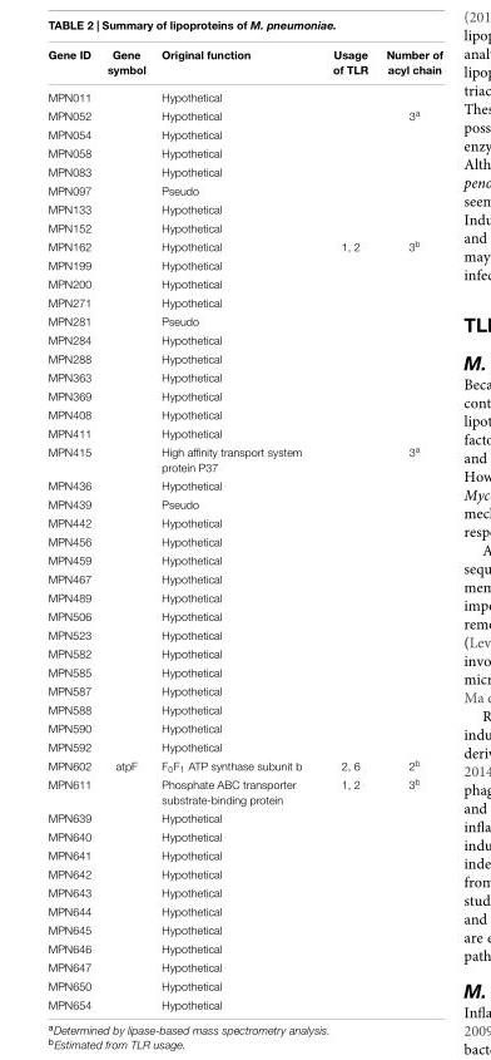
<table><thead><tr><td>Gene ID</td><td>Gene symbol</td><td>Original function</td><td>Usage of TLR</td><td>Number of acyl chain</td></tr></thead><tbody><tr><td>MPN011</td><td></td><td>Hypothetical</td><td></td><td></td></tr><tr><td>MPN052</td><td></td><td>Hypothetical</td><td></td><td>3<sup>a</sup></td></tr><tr><td>MPN054</td><td></td><td>Hypothetical</td><td></td><td></td></tr><tr><td>MPN058</td><td></td><td>Hypothetical</td><td></td><td></td></tr><tr><td>MPN083</td><td></td><td>Hypothetical</td><td></td><td></td></tr><tr><td>MPN097</td><td></td><td>Pseudo</td><td></td><td></td></tr><tr><td>MPN133</td><td></td><td>Hypothetical</td><td></td><td></td></tr><tr><td>MPN152</td><td></td><td>Hypothetical</td><td></td><td></td></tr><tr><td>MPN162</td><td></td><td>Hypothetical</td><td>1, 2</td><td>3<sup>b</sup></td></tr><tr><td>MPN199</td><td></td><td>Hypothetical</td><td></td><td></td></tr><tr><td>MPN200</td><td></td><td>Hypothetical</td><td></td><td></td></tr><tr><td>MPN271</td><td></td><td>Hypothetical</td><td></td><td></td></tr><tr><td>MPN281</td><td></td><td>Pseudo</td><td></td><td></td></tr><tr><td>MPN284</td><td></td><td>Hypothetical</td><td></td><td></td></tr><tr><td>MPN288</td><td></td><td>Hypothetical</td><td></td><td></td></tr><tr><td>MPN363</td><td></td><td>Hypothetical</td><td></td><td></td></tr><tr><td>MPN369</td><td></td><td>Hypothetical</td><td></td><td></td></tr><tr><td>MPN408</td><td></td><td>Hypothetical</td><td></td><td></td></tr><tr><td>MPN411</td><td></td><td>Hypothetical</td><td></td><td></td></tr><tr><td>MPN415</td><td></td><td>High affinity transport system protein P37</td><td></td><td>3<sup>a</sup></td></tr><tr><td>MPN436</td><td></td><td>Hypothetical</td><td></td><td></td></tr><tr><td>MPN439</td><td></td><td>Pseudo</td><td></td><td></td></tr><tr><td>MPN442</td><td></td><td>Hypothetical</td><td></td><td></td></tr><tr><td>MPN456</td><td></td><td>Hypothetical</td><td></td><td></td></tr><tr><td>MPN459</td><td></td><td>Hypothetical</td><td></td><td></td></tr><tr><td>MPN467</td><td></td><td>Hypothetical</td><td></td><td></td></tr><tr><td>MPN489</td><td></td><td>Hypothetical</td><td></td><td></td></tr><tr><td>MPN506</td><td></td><td>Hypothetical</td><td></td><td></td></tr><tr><td>MPN523</td><td></td><td>Hypothetical</td><td></td><td></td></tr><tr><td>MPN582</td><td></td><td>Hypothetical</td><td></td><td></td></tr><tr><td>MPN585</td><td></td><td>Hypothetical</td><td></td><td></td></tr><tr><td>MPN587</td><td></td><td>Hypothetical</td><td></td><td></td></tr><tr><td>MPN588</td><td></td><td>Hypothetical</td><td></td><td></td></tr><tr><td>MPN590</td><td></td><td>Hypothetical</td><td></td><td></td></tr><tr><td>MPN592</td><td></td><td>Hypothetical</td><td></td><td></td></tr><tr><td>MPN602</td><td>atpF</td><td>F<sub>0</sub>F<sub>1</sub> ATP synthase subunit b</td><td>2, 6</td><td>2<sup>b</sup></td></tr><tr><td>MPN611</td><td></td><td>Phosphate ABC transporter substrate-binding protein</td><td>1, 2</td><td>3<sup>b</sup></td></tr><tr><td>MPN639</td><td></td><td>Hypothetical</td><td></td><td></td></tr><tr><td>MPN640</td><td></td><td>Hypothetical</td><td></td><td></td></tr><tr><td>MPN641</td><td></td><td>Hypothetical</td><td></td><td></td></tr><tr><td>MPN642</td><td></td><td>Hypothetical</td><td></td><td></td></tr><tr><td>MPN643</td><td></td><td>Hypothetical</td><td></td><td></td></tr><tr><td>MPN644</td><td></td><td>Hypothetical</td><td></td><td></td></tr><tr><td>MPN645</td><td></td><td>Hypothetical</td><td></td><td></td></tr><tr><td>MPN646</td><td></td><td>Hypothetical</td><td></td><td></td></tr><tr><td>MPN647</td><td></td><td>Hypothetical</td><td></td><td></td></tr><tr><td>MPN650</td><td></td><td>Hypothetical</td><td></td><td></td></tr><tr><td>MPN654</td><td></td><td>Hypothetical</td><td></td><td></td></tr></tbody></table>